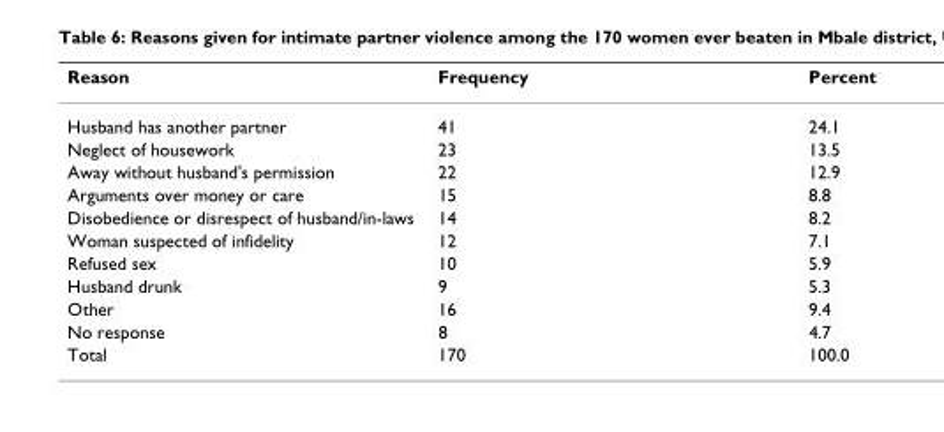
<table><thead><tr><td>Reason</td><td>Frequency</td><td>Percent</td></tr></thead><tbody><tr><td>Husband has another partner</td><td>41</td><td>24.1</td></tr><tr><td>Neglect of housework</td><td>23</td><td>13.5</td></tr><tr><td>Away without husband&#x27;s permission</td><td>22</td><td>12.9</td></tr><tr><td>Arguments over money or care</td><td>15</td><td>8.8</td></tr><tr><td>Disobedience or disrespect of husband/in-laws</td><td>14</td><td>8.2</td></tr><tr><td>Woman suspected of infidelity</td><td>12</td><td>7.1</td></tr><tr><td>Refused sex</td><td>10</td><td>5.9</td></tr><tr><td>Husband drunk</td><td>9</td><td>5.3</td></tr><tr><td>Other</td><td>16</td><td>9.4</td></tr><tr><td>No response</td><td>8</td><td>4.7</td></tr><tr><td>Total</td><td>170</td><td>100.0</td></tr></tbody></table>